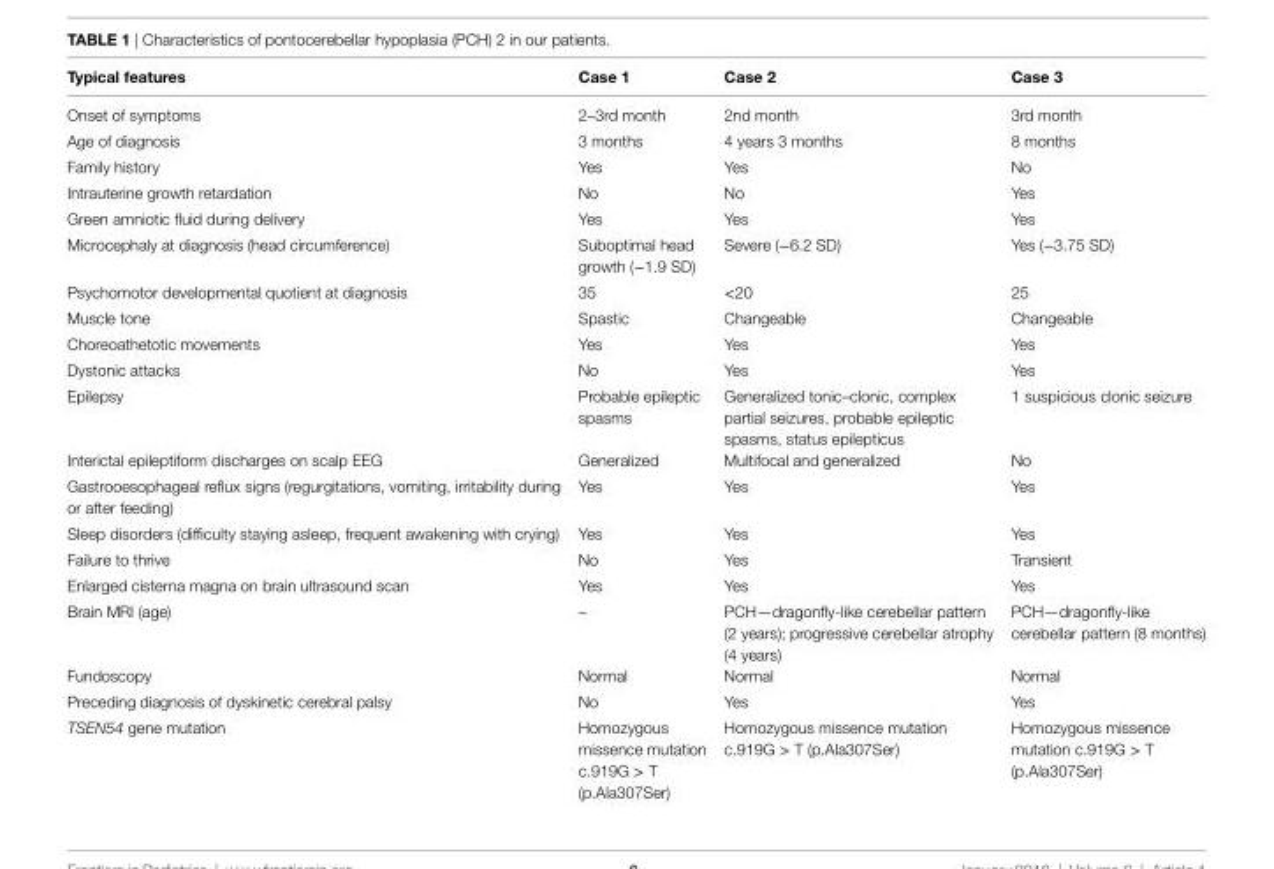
<table><thead><tr><td>typical features</td><td>Case 1</td><td>Case 2</td><td>Case 3</td></tr></thead><tbody><tr><td>Onset of symptoms</td><td>2–3rd month</td><td>2nd month</td><td>3rd month</td></tr><tr><td>Age of diagnosis</td><td>3 months</td><td>4 years 3 months</td><td>8 months</td></tr><tr><td>Family history</td><td>Yes</td><td>Yes</td><td>No</td></tr><tr><td>Intrauterine growth retardation</td><td>No</td><td>No</td><td>Yes</td></tr><tr><td>Green amniotic fluid during delivery</td><td>Yes</td><td>Yes</td><td>Yes</td></tr><tr><td>Microcephaly at diagnosis (head circumference)</td><td>Suboptimal head growth (−1.9 SD)</td><td>Severe (−6.2 SD)</td><td>Yes (−3.75 SD)</td></tr><tr><td>Psychomotor developmental quotient at diagnosis</td><td>35</td><td>&lt;20</td><td>25</td></tr><tr><td>Muscle tone</td><td>Spastic</td><td>Changeable</td><td>Changeable</td></tr><tr><td>Choreoathetotic movements</td><td>Yes</td><td>Yes</td><td>Yes</td></tr><tr><td>Dystonic attacks</td><td>No</td><td>Yes</td><td>Yes</td></tr><tr><td>Epilepsy</td><td>Probable epileptic spasms</td><td>Generalized tonic–clonic, complex partial seizures, probable epileptic spasms, status epilepticus</td><td>1 suspicious clonic seizure</td></tr><tr><td>Interictal epileptiform discharges on scalp EEG</td><td>Generalized</td><td>Multifocal and generalized</td><td>No</td></tr><tr><td>Gastrooesophageal reflux signs (regurgitations, vomiting, irritability during or after feeding)</td><td>Yes</td><td>Yes</td><td>Yes</td></tr><tr><td>Sleep disorders (difficulty staying asleep, frequent awakening with crying)</td><td>Yes</td><td>Yes</td><td>Yes</td></tr><tr><td>Failure to thrive</td><td>No</td><td>Yes</td><td>Transient</td></tr><tr><td>Enlarged cisterna magna on brain ultrasound scan</td><td>Yes</td><td>Yes</td><td>Yes</td></tr><tr><td>Brain MRI (age)</td><td>–</td><td>PCH—dragonfly-like cerebellar pattern (2 years); progressive cerebellar atrophy (4 years)</td><td>PCH—dragonfly-like cerebellar pattern (8 months)</td></tr><tr><td>Fundoscopy</td><td>Normal</td><td>Normal</td><td>Normal</td></tr><tr><td>Preceding diagnosis of dyskinetic cerebral palsy</td><td>No</td><td>Yes</td><td>Yes</td></tr><tr><td>TSEN54 gene mutation</td><td>Homozygous missence mutation c.919G &gt; T (p.Ala307Ser)</td><td>Homozygous missence mutation c.919G &gt; T (p.Ala307Ser)</td><td>Homozygous missence mutation c.919G &gt; T (p.Ala307Ser)</td></tr></tbody></table>